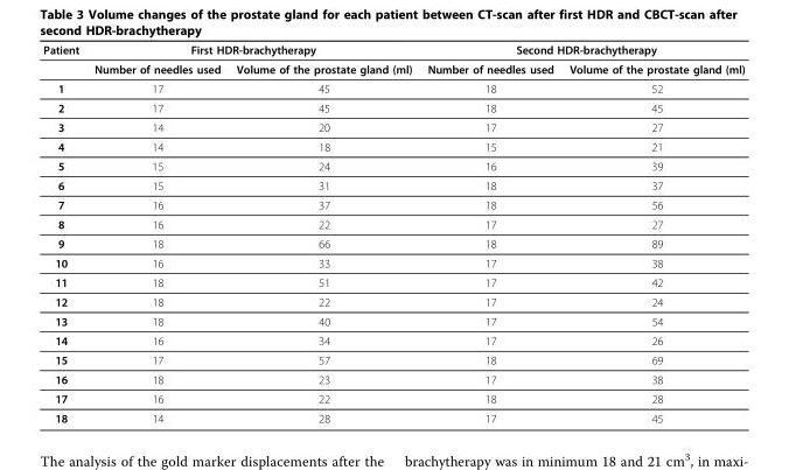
<table><thead><tr><td rowspan="2">Patient</td><td colspan="2">First HDR-brachytherapy</td><td colspan="2">Second HDR-brachytherapy</td></tr><tr><td>Number of needles used</td><td>Volume of the prostate gland (ml)</td><td>Number of needles used</td><td>Volume of the prostate gland (ml)</td></tr></thead><tbody><tr><td>1</td><td>17</td><td>45</td><td>18</td><td>52</td></tr><tr><td>2</td><td>17</td><td>45</td><td>18</td><td>45</td></tr><tr><td>3</td><td>14</td><td>20</td><td>17</td><td>27</td></tr><tr><td>4</td><td>14</td><td>18</td><td>15</td><td>21</td></tr><tr><td>5</td><td>15</td><td>24</td><td>16</td><td>39</td></tr><tr><td>6</td><td>15</td><td>31</td><td>18</td><td>37</td></tr><tr><td>7</td><td>16</td><td>37</td><td>18</td><td>56</td></tr><tr><td>8</td><td>16</td><td>22</td><td>17</td><td>27</td></tr><tr><td>9</td><td>18</td><td>66</td><td>18</td><td>89</td></tr><tr><td>10</td><td>16</td><td>33</td><td>17</td><td>38</td></tr><tr><td>11</td><td>18</td><td>51</td><td>17</td><td>42</td></tr><tr><td>12</td><td>18</td><td>22</td><td>17</td><td>24</td></tr><tr><td>13</td><td>18</td><td>40</td><td>17</td><td>54</td></tr><tr><td>14</td><td>16</td><td>34</td><td>17</td><td>26</td></tr><tr><td>15</td><td>17</td><td>57</td><td>18</td><td>69</td></tr><tr><td>16</td><td>18</td><td>23</td><td>17</td><td>38</td></tr><tr><td>17</td><td>16</td><td>22</td><td>18</td><td>28</td></tr><tr><td>18</td><td>14</td><td>28</td><td>17</td><td>45</td></tr></tbody></table>